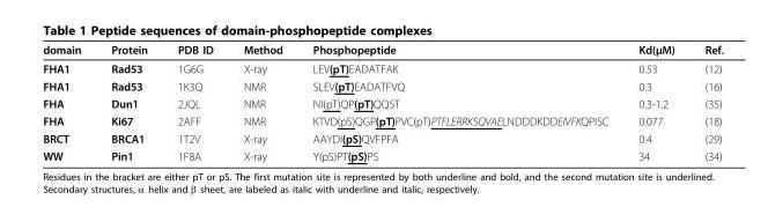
<table><thead><tr><td>domain</td><td>Protein</td><td>PDB ID</td><td>Method</td><td>Phosphopeptide</td><td>Kd(μM)</td><td>Ref.</td></tr></thead><tbody><tr><td>FHA1</td><td>Rad53</td><td>1G6G</td><td>X-ray</td><td>LEV(pT)EADATFAK</td><td>0.53</td><td>(12)</td></tr><tr><td>FHA1</td><td>Rad53</td><td>1K3Q</td><td>NMR</td><td>SLEV(pT)EADATFVQ</td><td>0.3</td><td>(16)</td></tr><tr><td>FHA</td><td>Dun1</td><td>2JQL</td><td>NMR</td><td>NI(pT)QP(pT)QQST</td><td>0.3-1.2</td><td>(35)</td></tr><tr><td>FHA</td><td>Ki67</td><td>2AFF</td><td>NMR</td><td>KTVD(pS)QGP(pT)PVC(pT)PTFLERRKSQVAELNDDDKDDEIVFKQPISC</td><td>0.077</td><td>(18)</td></tr><tr><td>BRCT</td><td>BRCA1</td><td>1T2V</td><td>X-ray</td><td>AAYDI(pS)QVFPFA</td><td>0.4</td><td>(29)</td></tr><tr><td>WW</td><td>Pin1</td><td>1F8A</td><td>X-ray</td><td>Y(pS)PT(pS)PS</td><td>34</td><td>(34)</td></tr></tbody></table>